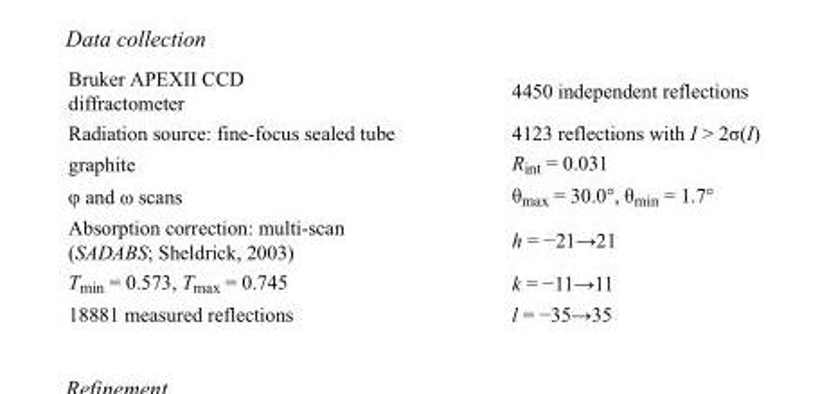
<table><tbody><tr><td>Bruker APEXII CCD diffractometer</td><td>4450 independent reflections</td></tr><tr><td>Radiation source: fine-focus sealed tube</td><td>4123 reflections with I &gt; 2σ(I)</td></tr><tr><td>graphite</td><td>R<sub>int</sub> = 0.031</td></tr><tr><td>φ and ω scans</td><td>θ<sub>max</sub> = 30.0°, θ<sub>min</sub> = 1.7°</td></tr><tr><td>Absorption correction: multi-scan (SADABS; Sheldrick, 2003)</td><td>h = −21→21</td></tr><tr><td>T<sub>min</sub> = 0.573, T<sub>max</sub> = 0.745</td><td>k = −11→11</td></tr><tr><td>18881 measured reflections</td><td>l = −35→35</td></tr></tbody></table>